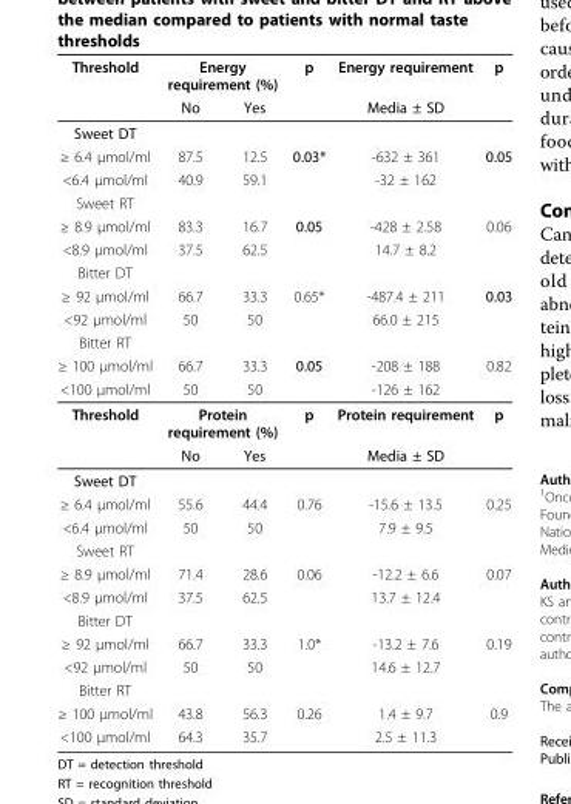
<table><thead><tr><td rowspan="2">Threshold</td><td colspan="2">Energy requirement (%)</td><td rowspan="2">p</td><td rowspan="2">Energy requirement Media ± SD</td><td rowspan="2">p</td></tr><tr><td>No</td><td>Yes</td></tr></thead><tbody><tr><td colspan="6">Sweet DT</td></tr><tr><td>≥ 6.4 μmol/ml</td><td>87.5</td><td>12.5</td><td>0.03*</td><td>-632 ± 361</td><td>0.05</td></tr><tr><td>&lt;6.4 μmol/ml</td><td>40.9</td><td>59.1</td><td></td><td>-32 ± 162</td><td></td></tr><tr><td colspan="6">Sweet RT</td></tr><tr><td>≥ 8.9 μmol/ml</td><td>83.3</td><td>16.7</td><td>0.05</td><td>-428 ± 2.58</td><td>0.06</td></tr><tr><td>&lt;8.9 μmol/ml</td><td>37.5</td><td>62.5</td><td></td><td>14.7 ± 8.2</td><td></td></tr><tr><td colspan="6">Bitter DT</td></tr><tr><td>≥ 92 μmol/ml</td><td>66.7</td><td>33.3</td><td>0.65*</td><td>-487.4 ± 211</td><td>0.03</td></tr><tr><td>&lt;92 μmol/ml</td><td>50</td><td>50</td><td></td><td>66.0 ± 215</td><td></td></tr><tr><td colspan="6">Bitter RT</td></tr><tr><td>≥ 100 μmol/ml</td><td>66.7</td><td>33.3</td><td>0.05</td><td>-208 ± 188</td><td>0.82</td></tr><tr><td>&lt;100 μmol/ml</td><td>50</td><td>50</td><td></td><td>-126 ± 162</td><td></td></tr><tr><td rowspan="2">Threshold</td><td colspan="2">Protein requirement (%)</td><td>p</td><td>Protein requirement</td><td>p</td></tr><tr><td>No</td><td>Yes</td><td></td><td>Media ± SD</td><td></td></tr><tr><td colspan="6">Sweet DT</td></tr><tr><td>≥ 6.4 μmol/ml</td><td>55.6</td><td>44.4</td><td>0.76</td><td>-15.6 ± 13.5</td><td>0.25</td></tr><tr><td>&lt;6.4 μmol/ml</td><td>50</td><td>50</td><td></td><td>7.9 ± 9.5</td><td></td></tr><tr><td colspan="6">Sweet RT</td></tr><tr><td>≥ 8.9 μmol/ml</td><td>71.4</td><td>28.6</td><td>0.06</td><td>-12.2 ± 6.6</td><td>0.07</td></tr><tr><td>&lt;8.9 μmol/ml</td><td>37.5</td><td>62.5</td><td></td><td>13.7 ± 12.4</td><td></td></tr><tr><td colspan="6">Bitter DT</td></tr><tr><td>≥ 92 μmol/ml</td><td>66.7</td><td>33.3</td><td>1.0*</td><td>-13.2 ± 7.6</td><td>0.19</td></tr><tr><td>&lt;92 μmol/ml</td><td>50</td><td>50</td><td></td><td>14.6 ± 12.7</td><td></td></tr><tr><td colspan="6">Bitter RT</td></tr><tr><td>≥ 100 μmol/ml</td><td>43.8</td><td>56.3</td><td>0.26</td><td>1.4 ± 9.7</td><td>0.9</td></tr><tr><td>&lt;100 μmol/ml</td><td>64.3</td><td>35.7</td><td></td><td>2.5 ± 11.3</td><td></td></tr></tbody></table>